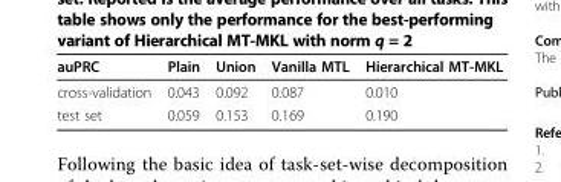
<table><thead><tr><td>auPRC</td><td>Plain</td><td>Union</td><td>Vanilla MTL</td><td>Hierarchical MT-MKL</td></tr></thead><tbody><tr><td>cross-validation</td><td>0.043</td><td>0.092</td><td>0.087</td><td>0.010</td></tr><tr><td>test set</td><td>0.059</td><td>0.153</td><td>0.169</td><td>0.190</td></tr></tbody></table>